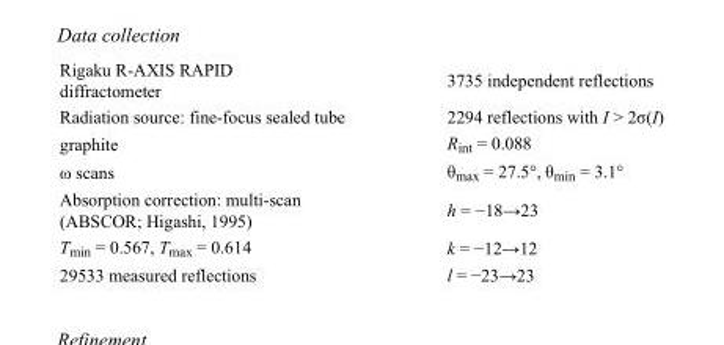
<table><tbody><tr><td>Rigaku R-AXIS RAPID diffractometer</td><td>3735 independent reflections</td></tr><tr><td>Radiation source: fine-focus sealed tube</td><td>2294 reflections with I &gt; 2σ(I)</td></tr><tr><td>graphite</td><td>R<sub>int</sub> = 0.088</td></tr><tr><td>ω scans</td><td>θ<sub>max</sub> = 27.5°, θ<sub>min</sub> = 3.1°</td></tr><tr><td>Absorption correction: multi-scan (ABSCOR; Higashi, 1995)</td><td>h = −18→23</td></tr><tr><td>T<sub>min</sub> = 0.567, T<sub>max</sub> = 0.614</td><td>k = −12→12</td></tr><tr><td>29533 measured reflections</td><td>l = −23→23</td></tr></tbody></table>